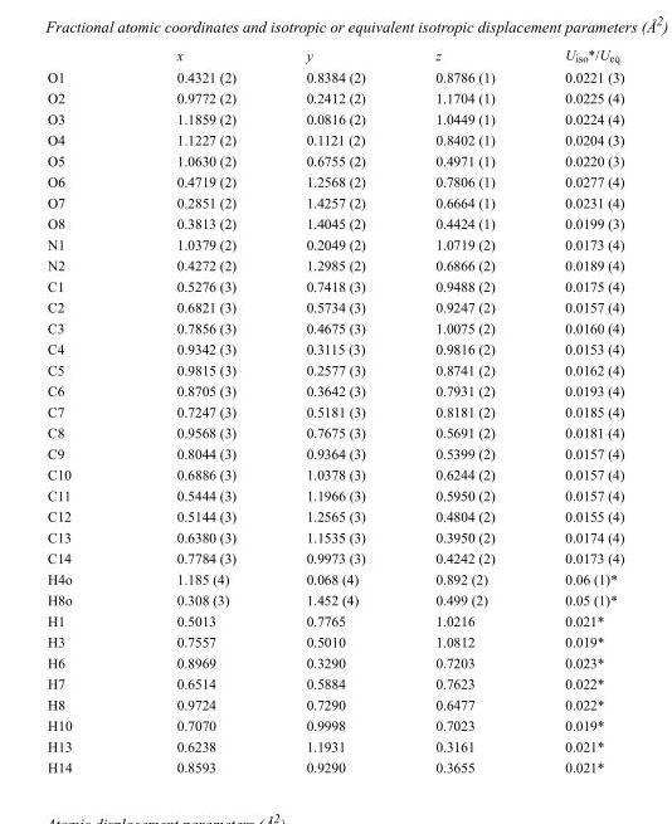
<table><thead><tr><td></td><td>x</td><td>y</td><td>z</td><td>U<sub>iso</sub>*/U<sub>eq</sub></td></tr></thead><tbody><tr><td>O1</td><td>0.4321 (2)</td><td>0.8384 (2)</td><td>0.8786 (1)</td><td>0.0221 (3)</td></tr><tr><td>O2</td><td>0.9772 (2)</td><td>0.2412 (2)</td><td>1.1704 (1)</td><td>0.0225 (4)</td></tr><tr><td>O3</td><td>1.1859 (2)</td><td>0.0816 (2)</td><td>1.0449 (1)</td><td>0.0224 (4)</td></tr><tr><td>O4</td><td>1.1227 (2)</td><td>0.1121 (2)</td><td>0.8402 (1)</td><td>0.0204 (3)</td></tr><tr><td>O5</td><td>1.0630 (2)</td><td>0.6755 (2)</td><td>0.4971 (1)</td><td>0.0220 (3)</td></tr><tr><td>O6</td><td>0.4719 (2)</td><td>1.2568 (2)</td><td>0.7806 (1)</td><td>0.0277 (4)</td></tr><tr><td>O7</td><td>0.2851 (2)</td><td>1.4257 (2)</td><td>0.6664 (1)</td><td>0.0231 (4)</td></tr><tr><td>O8</td><td>0.3813 (2)</td><td>1.4045 (2)</td><td>0.4424 (1)</td><td>0.0199 (3)</td></tr><tr><td>N1</td><td>1.0379 (2)</td><td>0.2049 (2)</td><td>1.0719 (2)</td><td>0.0173 (4)</td></tr><tr><td>N2</td><td>0.4272 (2)</td><td>1.2985 (2)</td><td>0.6866 (2)</td><td>0.0189 (4)</td></tr><tr><td>C1</td><td>0.5276 (3)</td><td>0.7418 (3)</td><td>0.9488 (2)</td><td>0.0175 (4)</td></tr><tr><td>C2</td><td>0.6821 (3)</td><td>0.5734 (3)</td><td>0.9247 (2)</td><td>0.0157 (4)</td></tr><tr><td>C3</td><td>0.7856 (3)</td><td>0.4675 (3)</td><td>1.0075 (2)</td><td>0.0160 (4)</td></tr><tr><td>C4</td><td>0.9342 (3)</td><td>0.3115 (3)</td><td>0.9816 (2)</td><td>0.0153 (4)</td></tr><tr><td>C5</td><td>0.9815 (3)</td><td>0.2577 (3)</td><td>0.8741 (2)</td><td>0.0162 (4)</td></tr><tr><td>C6</td><td>0.8705 (3)</td><td>0.3642 (3)</td><td>0.7931 (2)</td><td>0.0193 (4)</td></tr><tr><td>C7</td><td>0.7247 (3)</td><td>0.5181 (3)</td><td>0.8181 (2)</td><td>0.0185 (4)</td></tr><tr><td>C8</td><td>0.9568 (3)</td><td>0.7675 (3)</td><td>0.5691 (2)</td><td>0.0181 (4)</td></tr><tr><td>C9</td><td>0.8044 (3)</td><td>0.9364 (3)</td><td>0.5399 (2)</td><td>0.0157 (4)</td></tr><tr><td>C10</td><td>0.6886 (3)</td><td>1.0378 (3)</td><td>0.6244 (2)</td><td>0.0157 (4)</td></tr><tr><td>C11</td><td>0.5444 (3)</td><td>1.1966 (3)</td><td>0.5950 (2)</td><td>0.0157 (4)</td></tr><tr><td>C12</td><td>0.5144 (3)</td><td>1.2565 (3)</td><td>0.4804 (2)</td><td>0.0155 (4)</td></tr><tr><td>C13</td><td>0.6380 (3)</td><td>1.1535 (3)</td><td>0.3950 (2)</td><td>0.0174 (4)</td></tr><tr><td>C14</td><td>0.7784 (3)</td><td>0.9973 (3)</td><td>0.4242 (2)</td><td>0.0173 (4)</td></tr><tr><td>H4o</td><td>1.185 (4)</td><td>0.068 (4)</td><td>0.892 (2)</td><td>0.06 (1)*</td></tr><tr><td>H8o</td><td>0.308 (3)</td><td>1.452 (4)</td><td>0.499 (2)</td><td>0.05 (1)*</td></tr><tr><td>H1</td><td>0.5013</td><td>0.7765</td><td>1.0216</td><td>0.021*</td></tr><tr><td>H3</td><td>0.7557</td><td>0.5010</td><td>1.0812</td><td>0.019*</td></tr><tr><td>H6</td><td>0.8969</td><td>0.3290</td><td>0.7203</td><td>0.023*</td></tr><tr><td>H7</td><td>0.6514</td><td>0.5884</td><td>0.7623</td><td>0.022*</td></tr><tr><td>H8</td><td>0.9724</td><td>0.7290</td><td>0.6477</td><td>0.022*</td></tr><tr><td>H10</td><td>0.7070</td><td>0.9998</td><td>0.7023</td><td>0.019*</td></tr><tr><td>H13</td><td>0.6238</td><td>1.1931</td><td>0.3161</td><td>0.021*</td></tr><tr><td>H14</td><td>0.8593</td><td>0.9290</td><td>0.3655</td><td>0.021*</td></tr></tbody></table>